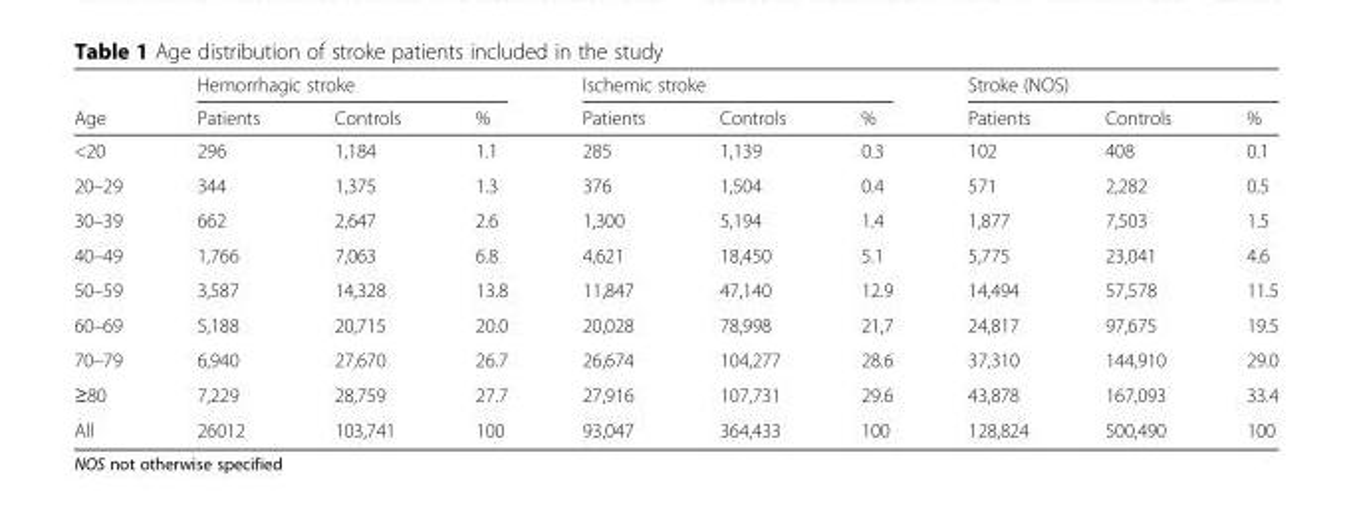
<table><thead><tr><td rowspan="2">Age</td><td colspan="3">Hemorrhagic stroke</td><td colspan="3">Ischemic stroke</td><td colspan="3">Stroke (NOS)</td></tr><tr><td>Patients</td><td>Controls</td><td>%</td><td>Patients</td><td>Controls</td><td>%</td><td>Patients</td><td>Controls</td><td>%</td></tr></thead><tbody><tr><td>&lt;20</td><td>296</td><td>1,184</td><td>1.1</td><td>285</td><td>1,139</td><td>0.3</td><td>102</td><td>408</td><td>0.1</td></tr><tr><td>20–29</td><td>344</td><td>1,375</td><td>1.3</td><td>376</td><td>1,504</td><td>0.4</td><td>571</td><td>2,282</td><td>0.5</td></tr><tr><td>30–39</td><td>662</td><td>2,647</td><td>2.6</td><td>1,300</td><td>5,194</td><td>1.4</td><td>1,877</td><td>7,503</td><td>1.5</td></tr><tr><td>40–49</td><td>1,766</td><td>7,063</td><td>6.8</td><td>4,621</td><td>18,450</td><td>5.1</td><td>5,775</td><td>23,041</td><td>4.6</td></tr><tr><td>50–59</td><td>3,587</td><td>14,328</td><td>13.8</td><td>11,847</td><td>47,140</td><td>12.9</td><td>14,494</td><td>57,578</td><td>11.5</td></tr><tr><td>60–69</td><td>5,188</td><td>20,715</td><td>20.0</td><td>20,028</td><td>78,998</td><td>21,7</td><td>24,817</td><td>97,675</td><td>19.5</td></tr><tr><td>70–79</td><td>6,940</td><td>27,670</td><td>26.7</td><td>26,674</td><td>104,277</td><td>28.6</td><td>37,310</td><td>144,910</td><td>29.0</td></tr><tr><td>≥80</td><td>7,229</td><td>28,759</td><td>27.7</td><td>27,916</td><td>107,731</td><td>29.6</td><td>43,878</td><td>167,093</td><td>33.4</td></tr><tr><td>All</td><td>26012</td><td>103,741</td><td>100</td><td>93,047</td><td>364,433</td><td>100</td><td>128,824</td><td>500,490</td><td>100</td></tr></tbody></table>